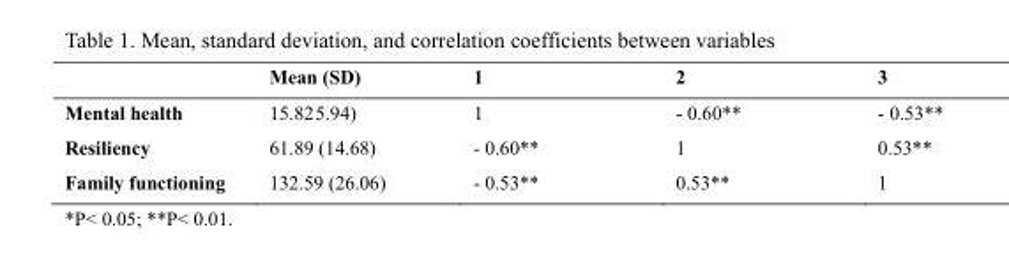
<table><thead><tr><td></td><td>Mean (SD)</td><td>1</td><td>2</td><td>3</td></tr></thead><tbody><tr><td>Mental health</td><td>15.82 5.94)</td><td>1</td><td>- 0.60**</td><td>- 0.53**</td></tr><tr><td>Resiliency</td><td>61.89 (14.68)</td><td>- 0.60**</td><td>1</td><td>0.53**</td></tr><tr><td>Family functioning</td><td>132.59 (26.06)</td><td>- 0.53**</td><td>0.53**</td><td>1</td></tr></tbody></table>